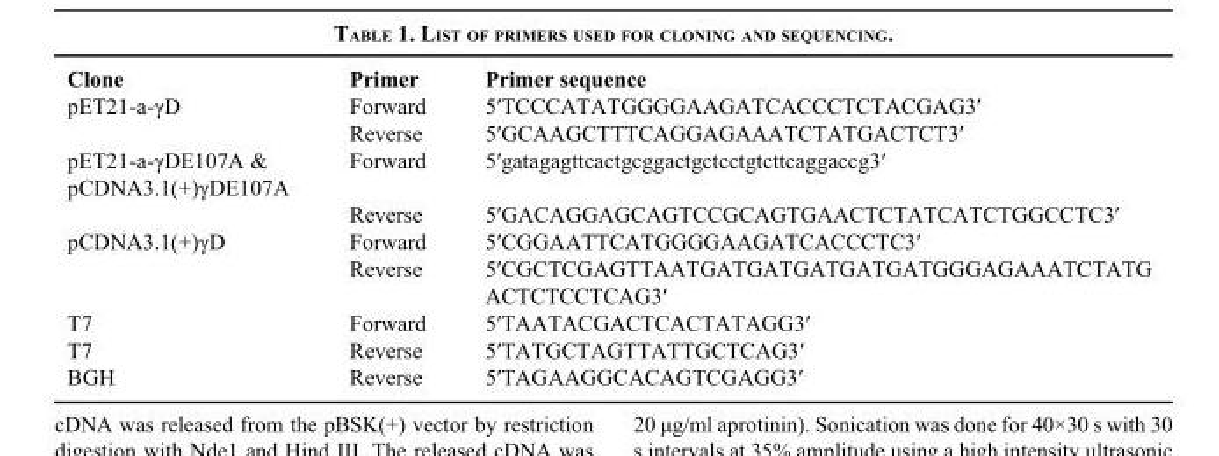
<table><thead><tr><td>Clone</td><td>Primer</td><td>Primer sequence</td></tr></thead><tbody><tr><td rowspan="2">pET21-a-γD</td><td>Forward</td><td>5′TCCCATATGGGGAAGATCACCCTCTACGAG3′</td></tr><tr><td>Reverse</td><td>5′GCAAGCTTTCAGGAGAAATCTATGACTCT3′</td></tr><tr><td rowspan="2">pET21-a-γDE107A &amp; pCDNA3.1(+)γDE107A</td><td>Forward</td><td>5′gatagagttcactgcggactgctcctgtcttcaggaccg3′</td></tr><tr><td>Reverse</td><td>5′GACAGGAGCAGTCCGCAGTGAACTCTATCATCTGGCCTC3′</td></tr><tr><td rowspan="2">pCDNA3.1(+)γD</td><td>Forward</td><td>5′CGGAATTCATGGGGAAGATCACCCTC3′</td></tr><tr><td>Reverse</td><td>5′CGCTCGAGTTAATGATGATGATGATGATGGGAGAAATCTATG ACTCTCCTCAG3′</td></tr><tr><td>T7</td><td>Forward</td><td>5′TAATACGACTCACTATAGG3′</td></tr><tr><td>T7</td><td>Reverse</td><td>5′TATGCTAGTTATTGCTCAG3′</td></tr><tr><td>BGH</td><td>Reverse</td><td>5′TAGAAGGCACAGTCGAGG3′</td></tr></tbody></table>